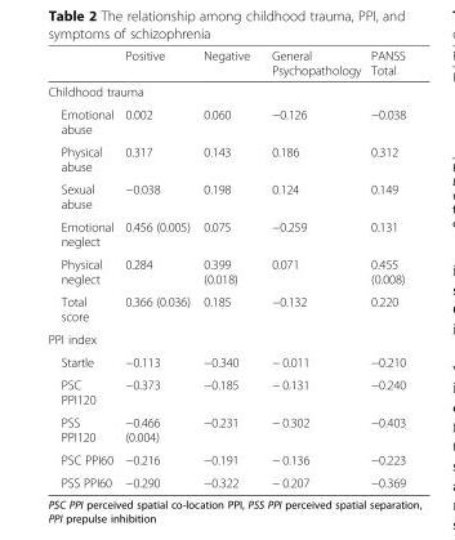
<table><thead><tr><td></td><td>Positive</td><td>Negative</td><td>General Psychopathology</td><td>PANSS Total</td></tr></thead><tbody><tr><td colspan="5">Childhood trauma</td></tr><tr><td>Emotional abuse</td><td>0.002</td><td>0.060</td><td>−0.126</td><td>−0.038</td></tr><tr><td>Physical abuse</td><td>0.317</td><td>0.143</td><td>0.186</td><td>0.312</td></tr><tr><td>Sexual abuse</td><td>−0.038</td><td>0.198</td><td>0.124</td><td>0.149</td></tr><tr><td>Emotional neglect</td><td>0.456 (0.005)</td><td>0.075</td><td>−0.259</td><td>0.131</td></tr><tr><td>Physical neglect</td><td>0.284</td><td>0.399 (0.018)</td><td>0.071</td><td>0.455 (0.008)</td></tr><tr><td>Total score</td><td>0.366 (0.036)</td><td>0.185</td><td>−0.132</td><td>0.220</td></tr><tr><td colspan="5">PPI index</td></tr><tr><td>Startle</td><td>−0.113</td><td>−0.340</td><td>− 0.011</td><td>−0.210</td></tr><tr><td>PSC PPI120</td><td>−0.373</td><td>−0.185</td><td>− 0.131</td><td>−0.240</td></tr><tr><td>PSS PPI120</td><td>−0.466 (0.004)</td><td>−0.231</td><td>− 0.302</td><td>−0.403</td></tr><tr><td>PSC PPI60</td><td>−0.216</td><td>−0.191</td><td>− 0.136</td><td>−0.223</td></tr><tr><td>PSS PPI60</td><td>−0.290</td><td>−0.322</td><td>− 0.207</td><td>−0.369</td></tr></tbody></table>